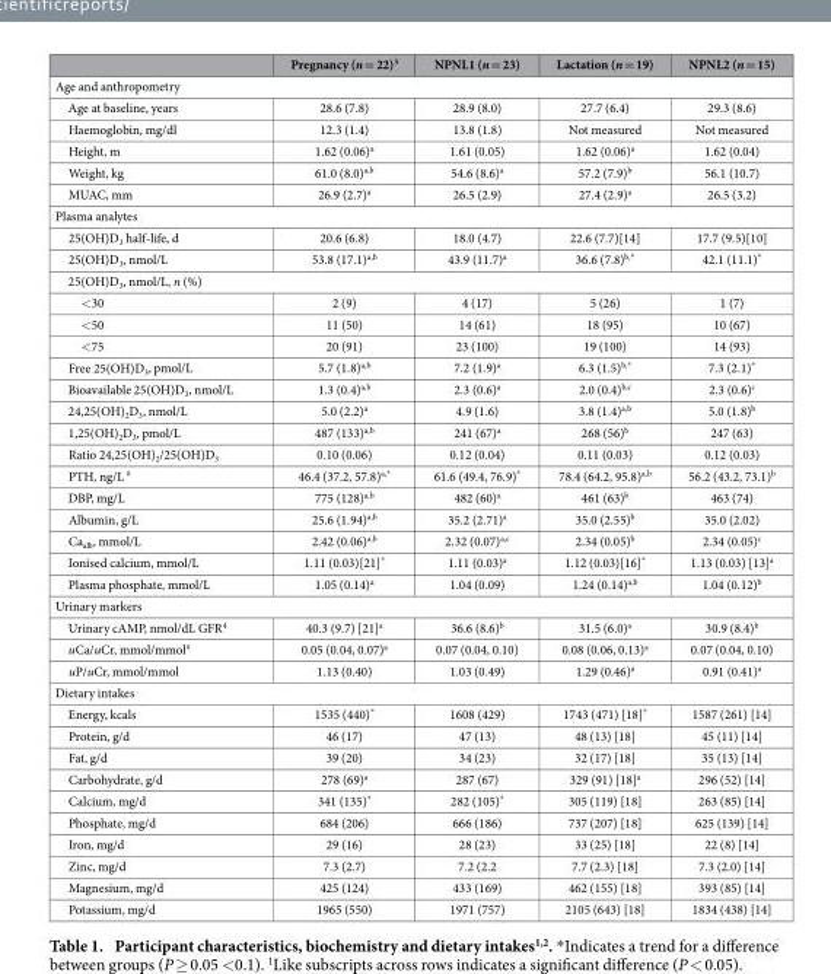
<table><thead><tr><td></td><td>Pregnancy (n = 22)<sup>3</sup></td><td>NPNL1 (n = 23)</td><td>Lactation (n = 19)</td><td>NPNL2 (n = 15)</td></tr></thead><tbody><tr><td colspan="5">Age and anthropometry</td></tr><tr><td>Age at baseline, years</td><td>28.6 (7.8)</td><td>28.9 (8.0)</td><td>27.7 (6.4)</td><td>29.3 (8.6)</td></tr><tr><td>Haemoglobin, mg/dl</td><td>12.3 (1.4)</td><td>13.8 (1.8)</td><td>Not measured</td><td>Not measured</td></tr><tr><td>Height, m</td><td>1.62 (0.06)<sup>a</sup></td><td>1.61 (0.05)</td><td>1.62 (0.06)<sup>a</sup></td><td>1.62 (0.04)</td></tr><tr><td>Weight, kg</td><td>61.0 (8.0)<sup>a,b</sup></td><td>54.6 (8.6)<sup>a</sup></td><td>57.2 (7.9)<sup>b</sup></td><td>56.1 (10.7)</td></tr><tr><td>MUAC, mm</td><td>26.9 (2.7)<sup>a</sup></td><td>26.5 (2.9)</td><td>27.4 (2.9)<sup>a</sup></td><td>26.5 (3.2)</td></tr><tr><td colspan="5">Plasma analytes</td></tr><tr><td>25(OH)D<sub>3</sub> half-life, d</td><td>20.6 (6.8)</td><td>18.0 (4.7)</td><td>22.6 (7.7)[14]</td><td>17.7 (9.5)[10]</td></tr><tr><td>25(OH)D<sub>3</sub>, nmol/L</td><td>53.8 (17.1)<sup>a,b</sup></td><td>43.9 (11.7)<sup>a</sup></td><td>36.6 (7.8)<sup>b,</sup>*</td><td>42.1 (11.1)*</td></tr><tr><td colspan="5">25(OH)D<sub>3</sub>, nmol/L, n (%)</td></tr><tr><td>&lt; 30</td><td>2 (9)</td><td>4 (17)</td><td>5 (26)</td><td>1 (7)</td></tr><tr><td>&lt; 50</td><td>11 (50)</td><td>14 (61)</td><td>18 (95)</td><td>10 (67)</td></tr><tr><td>&lt; 75</td><td>20 (91)</td><td>23 (100)</td><td>19 (100)</td><td>14 (93)</td></tr><tr><td>Free 25(OH)D<sub>3</sub>, pmol/L</td><td>5.7 (1.8)<sup>a,b</sup></td><td>7.2 (1.9)<sup>a</sup></td><td>6.3 (1.5)<sup>b,*</sup></td><td>7.3 (2.1)*</td></tr><tr><td>Bioavailable 25(OH)D<sub>3</sub>, nmol/L</td><td>1.3 (0.4)<sup>a,b</sup></td><td>2.3 (0.6)<sup>a</sup></td><td>2.0 (0.4)<sup>b,c</sup></td><td>2.3 (0.6)<sup>c</sup></td></tr><tr><td>24,25(OH)<sub>2</sub>D<sub>3</sub>, nmol/L</td><td>5.0 (2.2)<sup>a</sup></td><td>4.9 (1.6)</td><td>3.8 (1.4)<sup>a,b</sup></td><td>5.0 (1.8)<sup>b</sup></td></tr><tr><td>1,25(OH)<sub>2</sub>D<sub>3</sub>, pmol/L</td><td>487 (133)<sup>a,b</sup></td><td>241 (67)<sup>a</sup></td><td>268 (56)<sup>b</sup></td><td>247 (63)</td></tr><tr><td>Ratio 24,25(OH)<sub>2</sub>/25(OH)D<sub>3</sub></td><td>0.10 (0.06)</td><td>0.12 (0.04)</td><td>0.11 (0.03)</td><td>0.12 (0.03)</td></tr><tr><td>PTH, ng/L <sup>#</sup></td><td>46.4 (37.2, 57.8)<sup>a,</sup>*</td><td>61.6 (49.4, 76.9)*</td><td>78.4 (64.2, 95.8)<sup>a,b</sup></td><td>56.2 (43.2, 73.1)<sup>b</sup></td></tr><tr><td>DBP, mg/L</td><td>775 (128)<sup>a,b</sup></td><td>482 (60)<sup>a</sup></td><td>461 (63)<sup>b</sup></td><td>463 (74)</td></tr><tr><td>Albumin, g/L</td><td>25.6 (1.94)<sup>a,b</sup></td><td>35.2 (2.71)<sup>a</sup></td><td>35.0 (2.55)<sup>b</sup></td><td>35.0 (2.02)</td></tr><tr><td>Ca<sub>alb</sub>, mmol/L</td><td>2.42 (0.06)<sup>a,b</sup></td><td>2.32 (0.07)<sup>a,c</sup></td><td>2.34 (0.05)<sup>b</sup></td><td>2.34 (0.05)<sup>c</sup></td></tr><tr><td>Ionised calcium, mmol/L</td><td>1.11 (0.03)[21]*</td><td>1.11 (0.03)<sup>a</sup></td><td>1.12 (0.03)[16]*</td><td>1.13 (0.03) [13]<sup>a</sup></td></tr><tr><td>Plasma phosphate, mmol/L</td><td>1.05 (0.14)<sup>a</sup></td><td>1.04 (0.09)</td><td>1.24 (0.14)<sup>a,b</sup></td><td>1.04 (0.12)<sup>b</sup></td></tr><tr><td colspan="5">Urinary markers</td></tr><tr><td>Urinary cAMP, nmol/dL GFR<sup>4</sup></td><td>40.3 (9.7) [21]<sup>a</sup></td><td>36.6 (8.6)<sup>b</sup></td><td>31.5 (6.0)<sup>a</sup></td><td>30.9 (8.4)<sup>b</sup></td></tr><tr><td>uCa/uCr, mmol/mmol<sup>#</sup></td><td>0.05 (0.04, 0.07)<sup>a</sup></td><td>0.07 (0.04, 0.10)</td><td>0.08 (0.06, 0.13)<sup>a</sup></td><td>0.07 (0.04, 0.10)</td></tr><tr><td>uP/uCr, mmol/mmol</td><td>1.13 (0.40)</td><td>1.03 (0.49)</td><td>1.29 (0.46)<sup>a</sup></td><td>0.91 (0.41)<sup>a</sup></td></tr><tr><td colspan="5">Dietary intakes</td></tr><tr><td>Energy, kcals</td><td>1535 (440)*</td><td>1608 (429)</td><td>1743 (471) [18]*</td><td>1587 (261) [14]</td></tr><tr><td>Protein, g/d</td><td>46 (17)</td><td>47 (13)</td><td>48 (13) [18]</td><td>45 (11) [14]</td></tr><tr><td>Fat, g/d</td><td>39 (20)</td><td>34 (23)</td><td>32 (17) [18]</td><td>35 (13) [14]</td></tr><tr><td>Carbohydrate, g/d</td><td>278 (69)<sup>a</sup></td><td>287 (67)</td><td>329 (91) [18]<sup>a</sup></td><td>296 (52) [14]</td></tr><tr><td>Calcium, mg/d</td><td>341 (135)*</td><td>282 (105)*</td><td>305 (119) [18]</td><td>263 (85) [14]</td></tr><tr><td>Phosphate, mg/d</td><td>684 (206)</td><td>666 (186)</td><td>737 (207) [18]</td><td>625 (139) [14]</td></tr><tr><td>Iron, mg/d</td><td>29 (16)</td><td>28 (23)</td><td>33 (25) [18]</td><td>22 (8) [14]</td></tr><tr><td>Zinc, mg/d</td><td>7.3 (2.7)</td><td>7.2 (2.2</td><td>7.7 (2.3) [18]</td><td>7.3 (2.0) [14]</td></tr><tr><td>Magnesium, mg/d</td><td>425 (124)</td><td>433 (169)</td><td>462 (155) [18]</td><td>393 (85) [14]</td></tr><tr><td>Potassium, mg/d</td><td>1965 (550)</td><td>1971 (757)</td><td>2105 (643) [18]</td><td>1834 (438) [14]</td></tr></tbody></table>